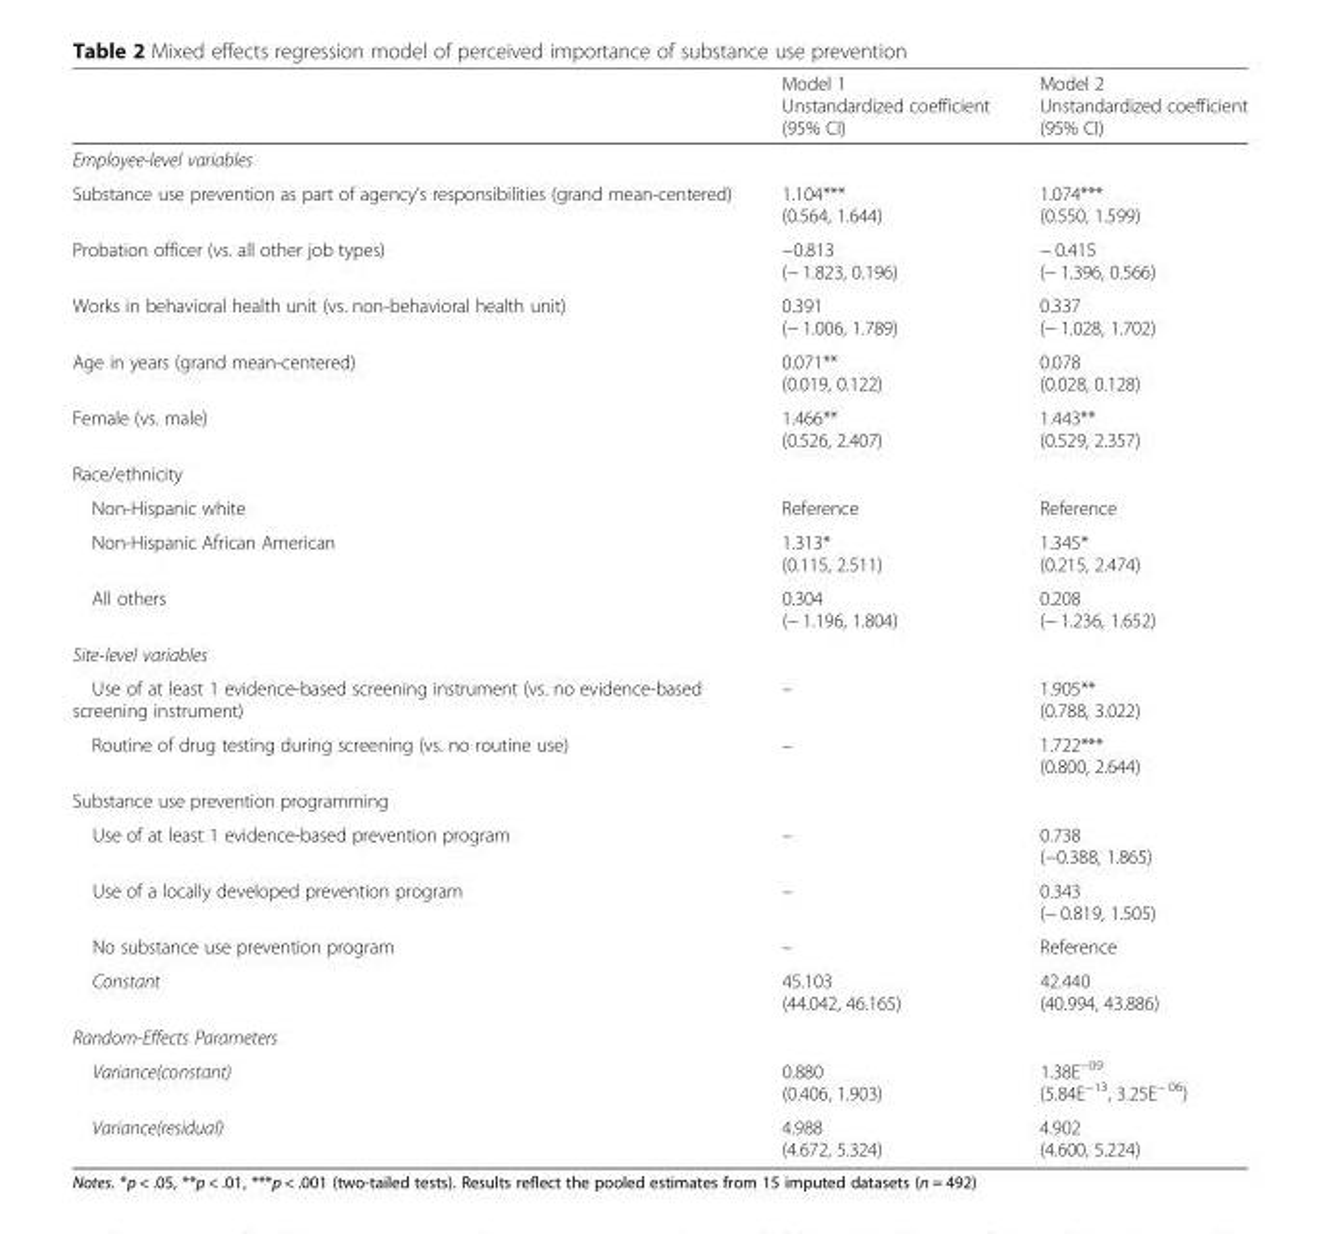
<table><thead><tr><td></td><td>Model 1 Unstandardized coefficient (95% CI)</td><td>Model 2 Unstandardized coefficient (95% CI)</td></tr></thead><tbody><tr><td colspan="3">Employee-level variables</td></tr><tr><td>Substance use prevention as part of agency’s responsibilities (grand mean-centered)</td><td>1.104*** (0.564, 1.644)</td><td>1.074*** (0.550, 1.599)</td></tr><tr><td>Probation officer (vs. all other job types)</td><td>−0.813 (− 1.823, 0.196)</td><td>− 0.415 (− 1.396, 0.566)</td></tr><tr><td>Works in behavioral health unit (vs. non-behavioral health unit)</td><td>0.391 (− 1.006, 1.789)</td><td>0.337 (− 1.028, 1.702)</td></tr><tr><td>Age in years (grand mean-centered)</td><td>0.071** (0.019, 0.122)</td><td>0.078 (0.028, 0.128)</td></tr><tr><td>Female (vs. male)</td><td>1.466** (0.526, 2.407)</td><td>1.443** (0.529, 2.357)</td></tr><tr><td colspan="3">Race/ethnicity</td></tr><tr><td>Non-Hispanic white</td><td>Reference</td><td>Reference</td></tr><tr><td>Non-Hispanic African American</td><td>1.313* (0.115, 2.511)</td><td>1.345* (0.215, 2.474)</td></tr><tr><td>All others</td><td>0.304 (− 1.196, 1.804)</td><td>0.208 (− 1.236, 1.652)</td></tr><tr><td colspan="3">Site-level variables</td></tr><tr><td>Use of at least 1 evidence-based screening instrument (vs. no evidence-based screening instrument)</td><td>–</td><td>1.905** (0.788, 3.022)</td></tr><tr><td>Routine of drug testing during screening (vs. no routine use)</td><td>–</td><td>1.722*** (0.800, 2.644)</td></tr><tr><td colspan="3">Substance use prevention programming</td></tr><tr><td>Use of at least 1 evidence-based prevention program</td><td>–</td><td>0.738 (−0.388, 1.865)</td></tr><tr><td>Use of a locally developed prevention program</td><td>–</td><td>0.343 (− 0.819, 1.505)</td></tr><tr><td>No substance use prevention program</td><td>–</td><td>Reference</td></tr><tr><td>Constant</td><td>45.103 (44.042, 46.165)</td><td>42.440 (40.994, 43.886)</td></tr><tr><td colspan="3">Random-Effects Parameters</td></tr><tr><td>Variance(constant)</td><td>0.880 (0.406, 1.903)</td><td>1.38E<sup>−09</sup> (5.84E<sup>−13</sup>, 3.25E<sup>− 06</sup>)</td></tr><tr><td>Variance(residual)</td><td>4.988 (4.672, 5.324)</td><td>4.902 (4.600, 5.224)</td></tr></tbody></table>